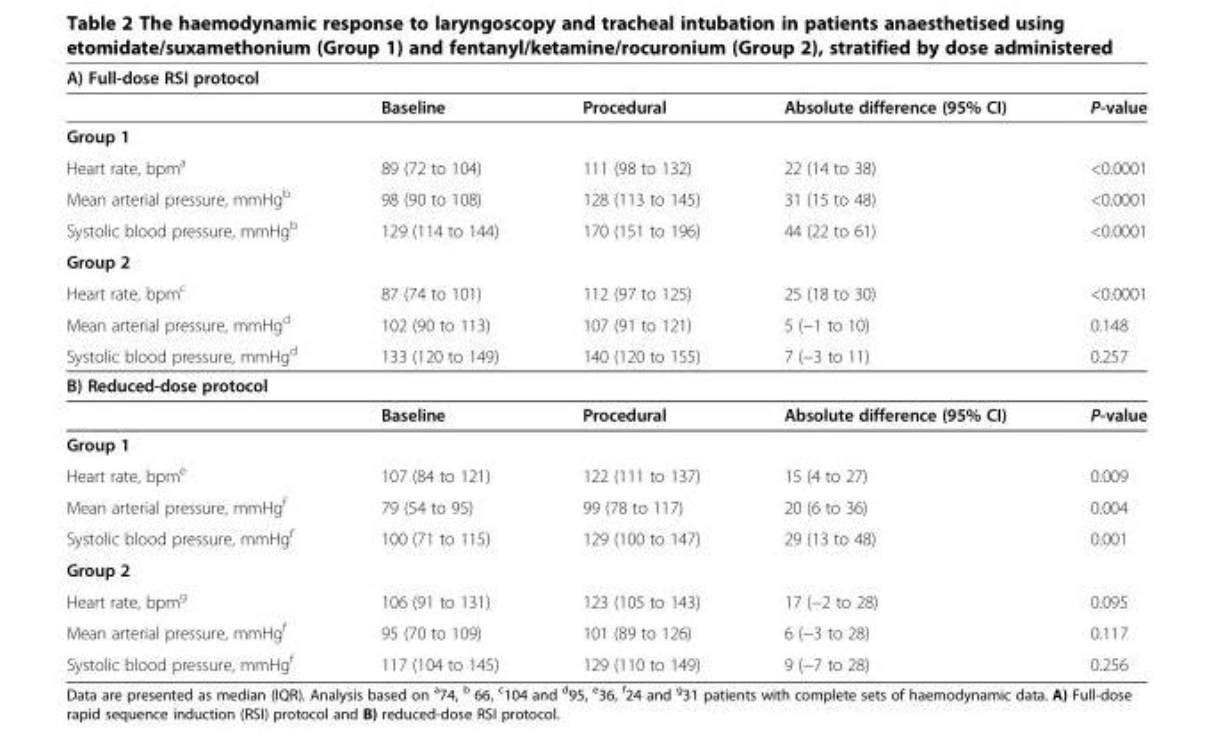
<table><tbody><tr><td colspan="5">A) Full-dose RSI protocol</td></tr><tr><td></td><td>Baseline</td><td>Procedural</td><td>Absolute difference (95% CI)</td><td>P-value</td></tr><tr><td colspan="5">Group 1</td></tr><tr><td>Heart rate, bpm<sup>a</sup></td><td>89 (72 to 104)</td><td>111 (98 to 132)</td><td>22 (14 to 38)</td><td>&lt;0.0001</td></tr><tr><td>Mean arterial pressure, mmHg<sup>b</sup></td><td>98 (90 to 108)</td><td>128 (113 to 145)</td><td>31 (15 to 48)</td><td>&lt;0.0001</td></tr><tr><td>Systolic blood pressure, mmHg<sup>b</sup></td><td>129 (114 to 144)</td><td>170 (151 to 196)</td><td>44 (22 to 61)</td><td>&lt;0.0001</td></tr><tr><td colspan="5">Group 2</td></tr><tr><td>Heart rate, bpm<sup>c</sup></td><td>87 (74 to 101)</td><td>112 (97 to 125)</td><td>25 (18 to 30)</td><td>&lt;0.0001</td></tr><tr><td>Mean arterial pressure, mmHg<sup>d</sup></td><td>102 (90 to 113)</td><td>107 (91 to 121)</td><td>5 (−1 to 10)</td><td>0.148</td></tr><tr><td>Systolic blood pressure, mmHg<sup>d</sup></td><td>133 (120 to 149)</td><td>140 (120 to 155)</td><td>7 (−3 to 11)</td><td>0.257</td></tr><tr><td colspan="5">B) Reduced-dose protocol</td></tr><tr><td></td><td>Baseline</td><td>Procedural</td><td>Absolute difference (95% CI)</td><td>P-value</td></tr><tr><td colspan="5">Group 1</td></tr><tr><td>Heart rate, bpm<sup>e</sup></td><td>107 (84 to 121)</td><td>122 (111 to 137)</td><td>15 (4 to 27)</td><td>0.009</td></tr><tr><td>Mean arterial pressure, mmHg<sup>f</sup></td><td>79 (54 to 95)</td><td>99 (78 to 117)</td><td>20 (6 to 36)</td><td>0.004</td></tr><tr><td>Systolic blood pressure, mmHg<sup>f</sup></td><td>100 (71 to 115)</td><td>129 (100 to 147)</td><td>29 (13 to 48)</td><td>0.001</td></tr><tr><td colspan="5">Group 2</td></tr><tr><td>Heart rate, bpm<sup>g</sup></td><td>106 (91 to 131)</td><td>123 (105 to 143)</td><td>17 (−2 to 28)</td><td>0.095</td></tr><tr><td>Mean arterial pressure, mmHg<sup>f</sup></td><td>95 (70 to 109)</td><td>101 (89 to 126)</td><td>6 (−3 to 28)</td><td>0.117</td></tr><tr><td>Systolic blood pressure, mmHg<sup>f</sup></td><td>117 (104 to 145)</td><td>129 (110 to 149)</td><td>9 (−7 to 28)</td><td>0.256</td></tr></tbody></table>